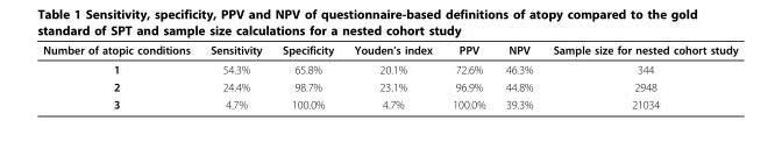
<table><thead><tr><td>Number of atopic conditions</td><td>Sensitivity</td><td>Specificity</td><td>Youden’s index</td><td>PPV</td><td>NPV</td><td>Sample size for nested cohort study</td></tr></thead><tbody><tr><td>1</td><td>54.3%</td><td>65.8%</td><td>20.1%</td><td>72.6%</td><td>46.3%</td><td>344</td></tr><tr><td>2</td><td>24.4%</td><td>98.7%</td><td>23.1%</td><td>96.9%</td><td>44.8%</td><td>2948</td></tr><tr><td>3</td><td>4.7%</td><td>100.0%</td><td>4.7%</td><td>100.0%</td><td>39.3%</td><td>21034</td></tr></tbody></table>